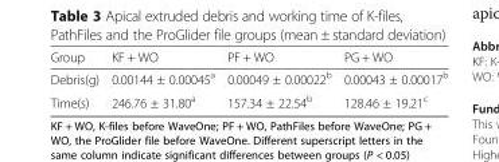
<table><thead><tr><td>Group</td><td>KF + WO</td><td>PF + WO</td><td>PG + WO</td></tr></thead><tbody><tr><td>Debris(g)</td><td>0.00144 ± 0.00045<sup>a</sup></td><td>0.00049 ± 0.00022<sup>b</sup></td><td>0.00043 ± 0.00017<sup>b</sup></td></tr><tr><td>Time(s)</td><td>246.76 ± 31.80<sup>a</sup></td><td>157.34 ± 22.54<sup>b</sup></td><td>128.46 ± 19.21<sup>c</sup></td></tr></tbody></table>